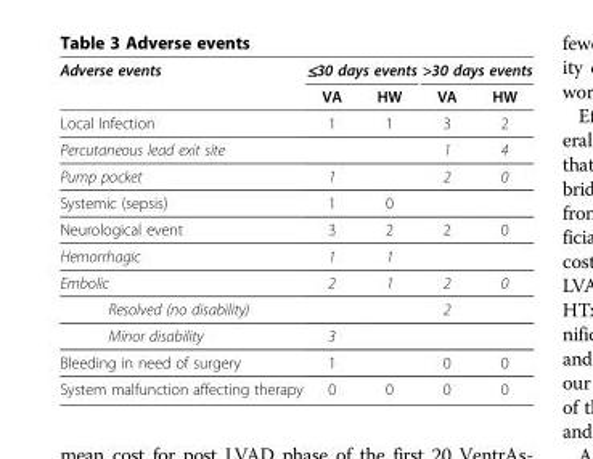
<table><thead><tr><td rowspan="2">Adverse events</td><td colspan="2">≤30 days events</td><td colspan="2">&gt;30 days events</td></tr><tr><td>VA</td><td>HW</td><td>VA</td><td>HW</td></tr></thead><tbody><tr><td>Local Infection</td><td>1</td><td>1</td><td>3</td><td>2</td></tr><tr><td>Percutaneous lead exit site</td><td></td><td></td><td>1</td><td>4</td></tr><tr><td>Pump pocket</td><td>1</td><td></td><td>2</td><td>0</td></tr><tr><td>Systemic (sepsis)</td><td>1</td><td>0</td><td></td><td></td></tr><tr><td>Neurological event</td><td>3</td><td>2</td><td>2</td><td>0</td></tr><tr><td>Hemorrhagic</td><td>1</td><td>1</td><td></td><td></td></tr><tr><td>Embolic</td><td>2</td><td>1</td><td>2</td><td>0</td></tr><tr><td>Resolved (no disability)</td><td></td><td></td><td>2</td><td></td></tr><tr><td>Minor disability</td><td>3</td><td></td><td></td><td></td></tr><tr><td>Bleeding in need of surgery</td><td>1</td><td></td><td>0</td><td>0</td></tr><tr><td>System malfunction affecting therapy</td><td>0</td><td>0</td><td>0</td><td>0</td></tr></tbody></table>